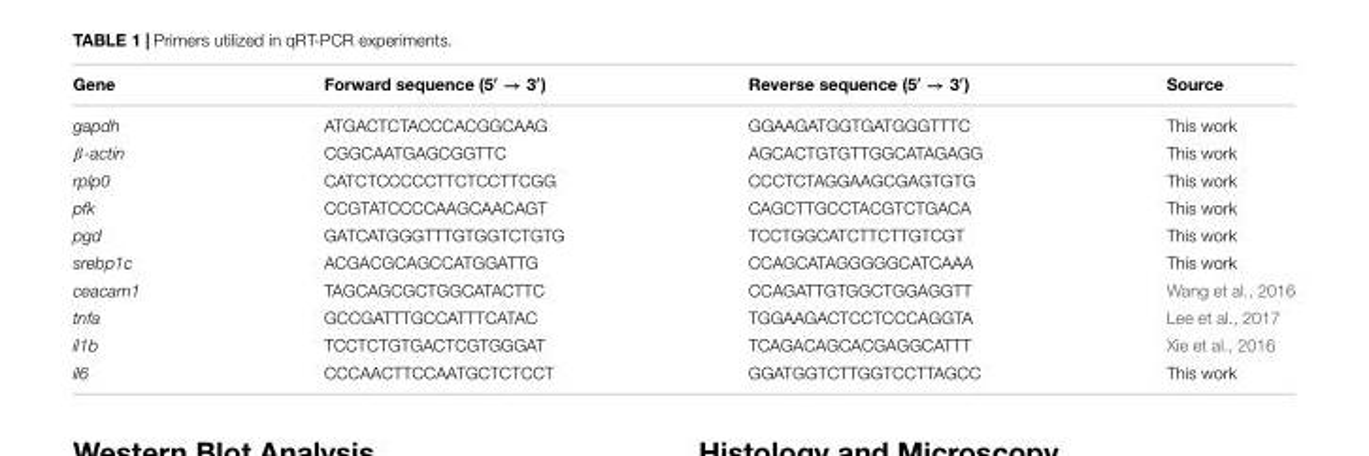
<table><thead><tr><td>Gene</td><td>Forward sequence (5′ → 3′)</td><td>Reverse sequence (5′ → 3′)</td><td>Source</td></tr></thead><tbody><tr><td>gapdh</td><td>ATGACTCTACCCACGGCAAG</td><td>GGAAGATGGTGATGGGTTTC</td><td>This work</td></tr><tr><td>β-actin</td><td>CGGCAATGAGCGGTTC</td><td>AGCACTGTGTTGGCATAGAGG</td><td>This work</td></tr><tr><td>rplp0</td><td>CATCTCCCCCTTCTCCTTCGG</td><td>CCCTCTAGGAAGCGAGTGTG</td><td>This work</td></tr><tr><td>pfk</td><td>CCGTATCCCCAAGCAACAGT</td><td>CAGCTTGCCTACGTCTGACA</td><td>This work</td></tr><tr><td>pgd</td><td>GATCATGGGTTTGTGGTCTGTG</td><td>TCCTGGCATCTTCTTGTCGT</td><td>This work</td></tr><tr><td>srebp1c</td><td>ACGACGCAGCCATGGATTG</td><td>CCAGCATAGGGGGCATCAAA</td><td>This work</td></tr><tr><td>ceacam1</td><td>TAGCAGCGCTGGCATACTTC</td><td>CCAGATTGTGGCTGGAGGTT</td><td>Wang et al., 2016</td></tr><tr><td>tnfa</td><td>GCCGATTTGCCATTTCATAC</td><td>TGGAAGACTCCTCCCAGGTA</td><td>Lee et al., 2017</td></tr><tr><td>il1b</td><td>TCCTCTGTGACTCGTGGGAT</td><td>TCAGACAGCACGAGGCATTT</td><td>Xie et al., 2016</td></tr><tr><td>il6</td><td>CCCAACTTCCAATGCTCTCCT</td><td>GGATGGTCTTGGTCCTTAGCC</td><td>This work</td></tr></tbody></table>